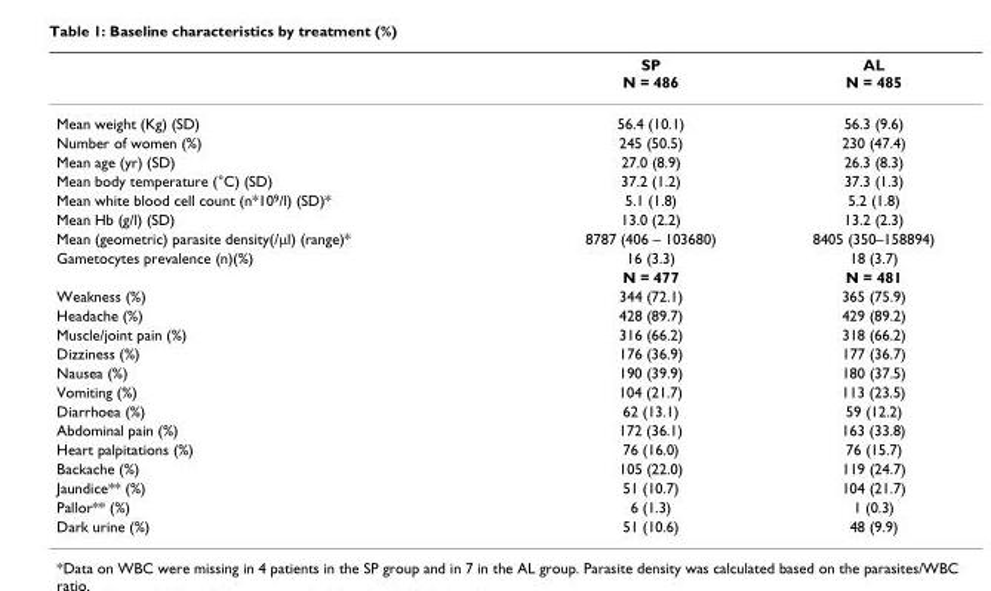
<table><thead><tr><td></td><td>SP N = 486</td><td>AL N = 485</td></tr></thead><tbody><tr><td>Mean weight (Kg) (SD)</td><td>56.4 (10.1)</td><td>56.3 (9.6)</td></tr><tr><td>Number of women (%)</td><td>245 (50.5)</td><td>230 (47.4)</td></tr><tr><td>Mean age (yr) (SD)</td><td>27.0 (8.9)</td><td>26.3 (8.3)</td></tr><tr><td>Mean body temperature (°C) (SD)</td><td>37.2 (1.2)</td><td>37.3 (1.3)</td></tr><tr><td>Mean white blood cell count (n*10<sup>9</sup>/l) (SD)*</td><td>5.1 (1.8)</td><td>5.2 (1.8)</td></tr><tr><td>Mean Hb (g/l) (SD)</td><td>13.0 (2.2)</td><td>13.2 (2.3)</td></tr><tr><td>Mean (geometric) parasite density(/µl) (range)*</td><td>8787 (406 – 103680)</td><td>8405 (350–158894)</td></tr><tr><td rowspan="2">Gametocytes prevalence (n)(%)</td><td>16 (3.3)</td><td>18 (3.7)</td></tr><tr><td>N = 477</td><td>N = 481</td></tr><tr><td>Weakness (%)</td><td>344 (72.1)</td><td>365 (75.9)</td></tr><tr><td>Headache (%)</td><td>428 (89.7)</td><td>429 (89.2)</td></tr><tr><td>Muscle/joint pain (%)</td><td>316 (66.2)</td><td>318 (66.2)</td></tr><tr><td>Dizziness (%)</td><td>176 (36.9)</td><td>177 (36.7)</td></tr><tr><td>Nausea (%)</td><td>190 (39.9)</td><td>180 (37.5)</td></tr><tr><td>Vomiting (%)</td><td>104 (21.7)</td><td>113 (23.5)</td></tr><tr><td>Diarrhoea (%)</td><td>62 (13.1)</td><td>59 (12.2)</td></tr><tr><td>Abdominal pain (%)</td><td>172 (36.1)</td><td>163 (33.8)</td></tr><tr><td>Heart palpitations (%)</td><td>76 (16.0)</td><td>76 (15.7)</td></tr><tr><td>Backache (%)</td><td>105 (22.0)</td><td>119 (24.7)</td></tr><tr><td>Jaundice** (%)</td><td>51 (10.7)</td><td>104 (21.7)</td></tr><tr><td>Pallor** (%)</td><td>6 (1.3)</td><td>1 (0.3)</td></tr><tr><td>Dark urine (%)</td><td>51 (10.6)</td><td>48 (9.9)</td></tr></tbody></table>